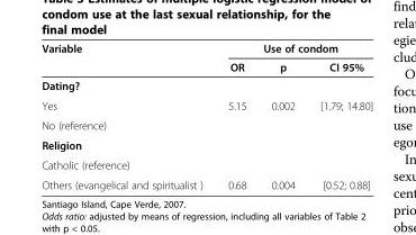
<table><thead><tr><td rowspan="2">Variable</td><td colspan="3">Use of condom</td></tr><tr><td>OR</td><td>p</td><td>CI 95%</td></tr></thead><tbody><tr><td colspan="4">Dating?</td></tr><tr><td>Yes</td><td>5.15</td><td>0.002</td><td>[1.79; 14.80]</td></tr><tr><td colspan="4">No (reference)</td></tr><tr><td colspan="4">Religion</td></tr><tr><td colspan="4">Catholic (reference)</td></tr><tr><td>Others (evangelical and spiritualist )</td><td>0.68</td><td>0.004</td><td>[0.52; 0.88]</td></tr></tbody></table>